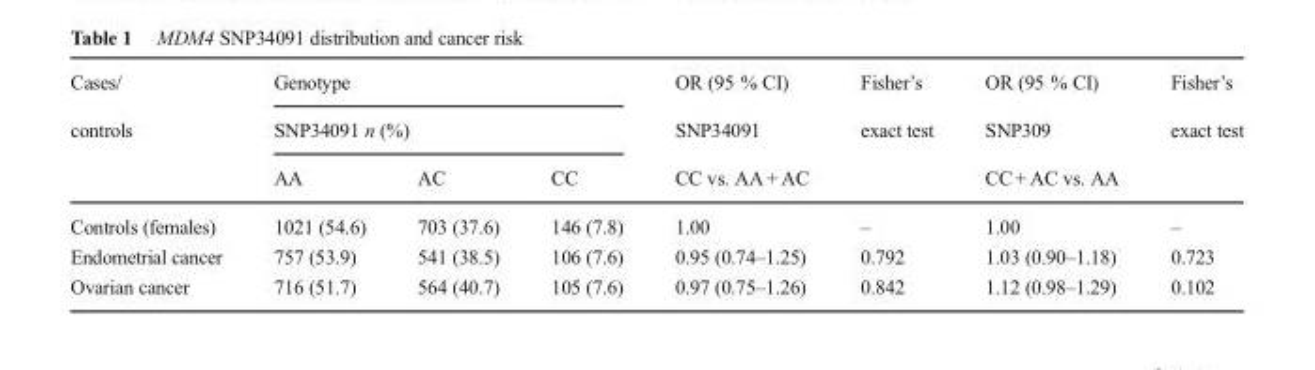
<table><thead><tr><td rowspan="3">Cases/ controls</td><td rowspan="2" colspan="3">Genotype SNP34091 n (%)</td><td rowspan="3">OR (95 % CI) SNP34091 CC vs. AA + AC</td><td rowspan="3">Fisher’s exact test</td><td rowspan="3">OR (95 % CI) SNP309 CC + AC vs. AA</td><td rowspan="3">Fisher’s exact test</td></tr><tr></tr><tr><td>AA</td><td>AC</td><td>CC</td></tr></thead><tbody><tr><td>Controls (females)</td><td>1021 (54.6)</td><td>703 (37.6)</td><td>146 (7.8)</td><td>1.00</td><td>–</td><td>1.00</td><td>–</td></tr><tr><td>Endometrial cancer</td><td>757 (53.9)</td><td>541 (38.5)</td><td>106 (7.6)</td><td>0.95 (0.74–1.25)</td><td>0.792</td><td>1.03 (0.90–1.18)</td><td>0.723</td></tr><tr><td>Ovarian cancer</td><td>716 (51.7)</td><td>564 (40.7)</td><td>105 (7.6)</td><td>0.97 (0.75–1.26)</td><td>0.842</td><td>1.12 (0.98–1.29)</td><td>0.102</td></tr></tbody></table>